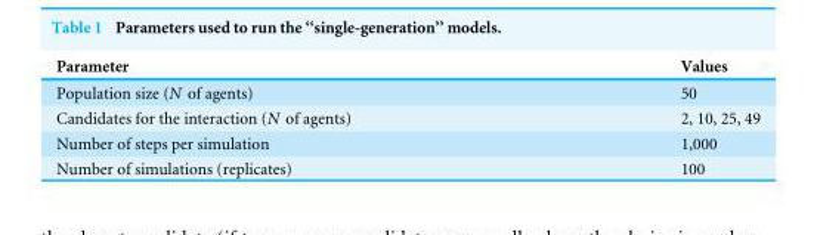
<table><thead><tr><td>Parameter</td><td>Values</td></tr></thead><tbody><tr><td>Population size (N of agents)</td><td>50</td></tr><tr><td>Candidates for the interaction (N of agents)</td><td>2, 10, 25, 49</td></tr><tr><td>Number of steps per simulation</td><td>1,000</td></tr><tr><td>Number of simulations (replicates)</td><td>100</td></tr></tbody></table>